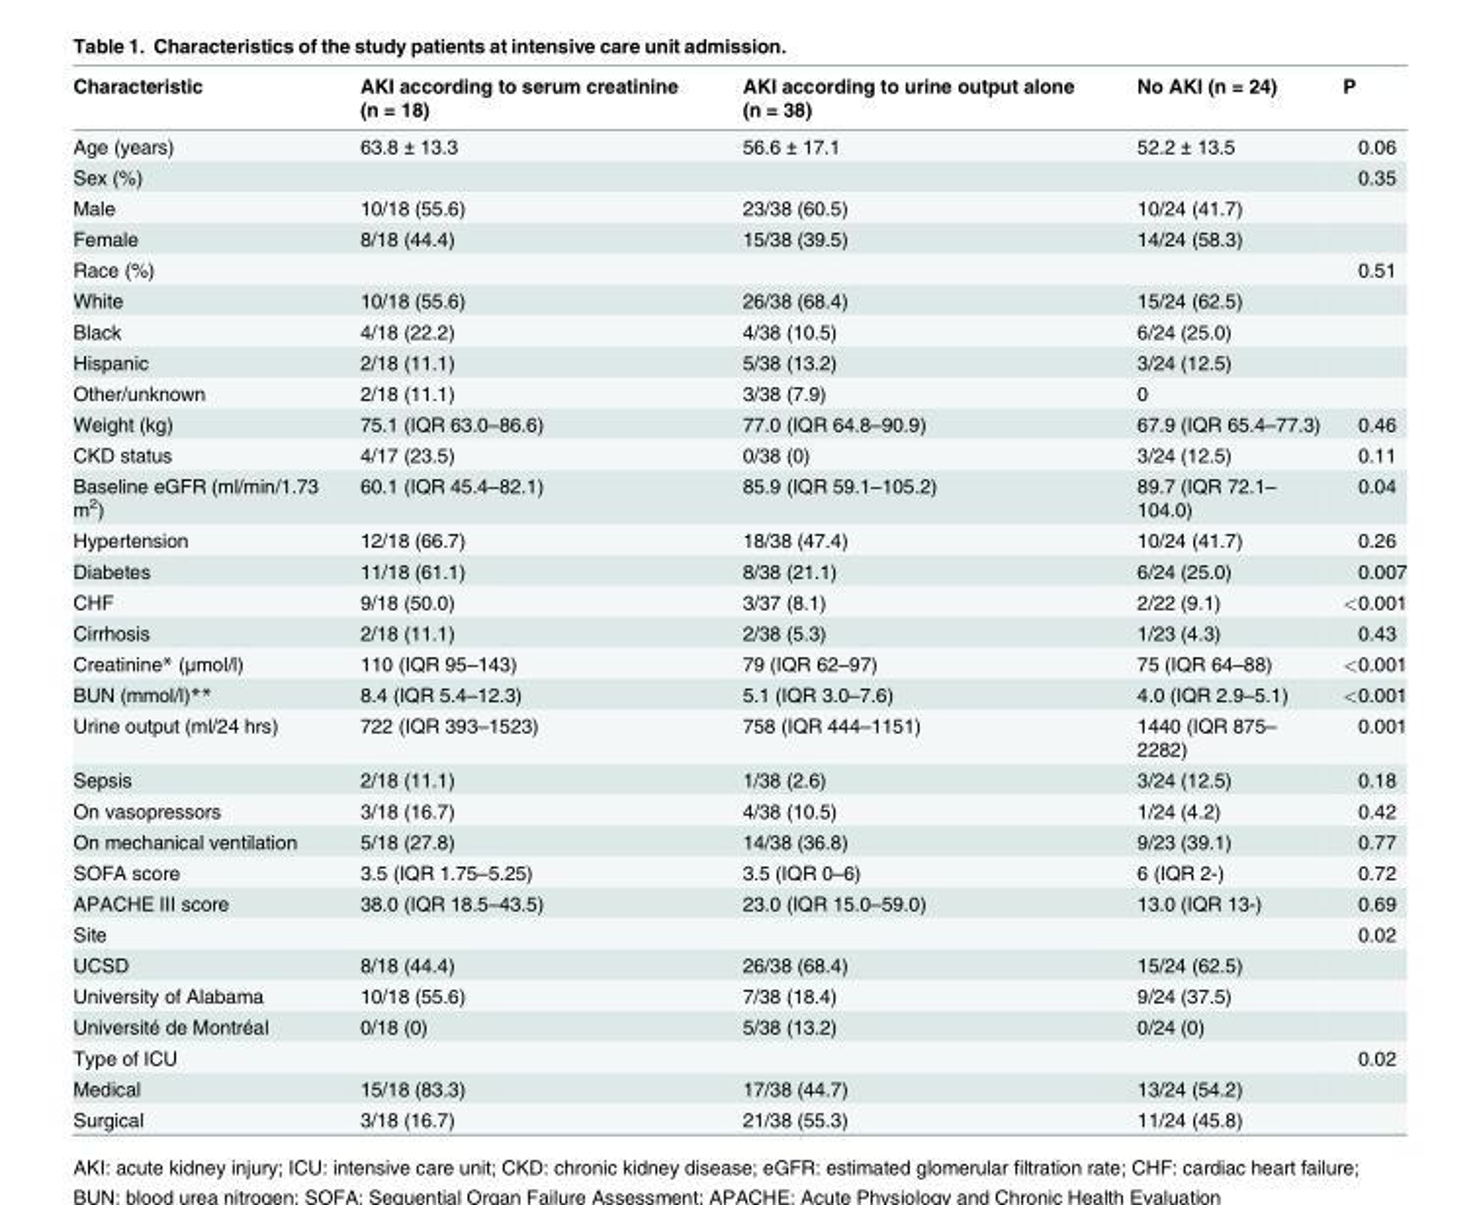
<table><thead><tr><td>Characteristic</td><td>AKI according to serum creatinine (n = 18)</td><td>AKI according to urine output alone (n = 38)</td><td>No AKI (n = 24)</td><td>P</td></tr></thead><tbody><tr><td>Age (years)</td><td>63.8 ± 13.3</td><td>56.6 ± 17.1</td><td>52.2 ± 13.5</td><td>0.06</td></tr><tr><td>Sex (%)</td><td></td><td></td><td></td><td>0.35</td></tr><tr><td>Male</td><td>10/18 (55.6)</td><td>23/38 (60.5)</td><td>10/24 (41.7)</td><td></td></tr><tr><td>Female</td><td>8/18 (44.4)</td><td>15/38 (39.5)</td><td>14/24 (58.3)</td><td></td></tr><tr><td>Race (%)</td><td></td><td></td><td></td><td>0.51</td></tr><tr><td>White</td><td>10/18 (55.6)</td><td>26/38 (68.4)</td><td>15/24 (62.5)</td><td></td></tr><tr><td>Black</td><td>4/18 (22.2)</td><td>4/38 (10.5)</td><td>6/24 (25.0)</td><td></td></tr><tr><td>Hispanic</td><td>2/18 (11.1)</td><td>5/38 (13.2)</td><td>3/24 (12.5)</td><td></td></tr><tr><td>Other/unknown</td><td>2/18 (11.1)</td><td>3/38 (7.9)</td><td>0</td><td></td></tr><tr><td>Weight (kg)</td><td>75.1 (IQR 63.0–86.6)</td><td>77.0 (IQR 64.8–90.9)</td><td>67.9 (IQR 65.4–77.3)</td><td>0.46</td></tr><tr><td>CKD status</td><td>4/17 (23.5)</td><td>0/38 (0)</td><td>3/24 (12.5)</td><td>0.11</td></tr><tr><td>Baseline eGFR (ml/min/1.73 m<sup>2</sup>)</td><td>60.1 (IQR 45.4–82.1)</td><td>85.9 (IQR 59.1–105.2)</td><td>89.7 (IQR 72.1– 104.0)</td><td>0.04</td></tr><tr><td>Hypertension</td><td>12/18 (66.7)</td><td>18/38 (47.4)</td><td>10/24 (41.7)</td><td>0.26</td></tr><tr><td>Diabetes</td><td>11/18 (61.1)</td><td>8/38 (21.1)</td><td>6/24 (25.0)</td><td>0.007</td></tr><tr><td>CHF</td><td>9/18 (50.0)</td><td>3/37 (8.1)</td><td>2/22 (9.1)</td><td>&lt;0.001</td></tr><tr><td>Cirrhosis</td><td>2/18 (11.1)</td><td>2/38 (5.3)</td><td>1/23 (4.3)</td><td>0.43</td></tr><tr><td>Creatinine* (μmol/l)</td><td>110 (IQR 95–143)</td><td>79 (IQR 62–97)</td><td>75 (IQR 64–88)</td><td>&lt;0.001</td></tr><tr><td>BUN (mmol/l)**</td><td>8.4 (IQR 5.4–12.3)</td><td>5.1 (IQR 3.0–7.6)</td><td>4.0 (IQR 2.9–5.1)</td><td>&lt;0.001</td></tr><tr><td>Urine output (ml/24 hrs)</td><td>722 (IQR 393–1523)</td><td>758 (IQR 444–1151)</td><td>1440 (IQR 875– 2282)</td><td>0.001</td></tr><tr><td>Sepsis</td><td>2/18 (11.1)</td><td>1/38 (2.6)</td><td>3/24 (12.5)</td><td>0.18</td></tr><tr><td>On vasopressors</td><td>3/18 (16.7)</td><td>4/38 (10.5)</td><td>1/24 (4.2)</td><td>0.42</td></tr><tr><td>On mechanical ventilation</td><td>5/18 (27.8)</td><td>14/38 (36.8)</td><td>9/23 (39.1)</td><td>0.77</td></tr><tr><td>SOFA score</td><td>3.5 (IQR 1.75–5.25)</td><td>3.5 (IQR 0–6)</td><td>6 (IQR 2-)</td><td>0.72</td></tr><tr><td>APACHE III score</td><td>38.0 (IQR 18.5–43.5)</td><td>23.0 (IQR 15.0–59.0)</td><td>13.0 (IQR 13-)</td><td>0.69</td></tr><tr><td>Site</td><td></td><td></td><td></td><td>0.02</td></tr><tr><td>UCSD</td><td>8/18 (44.4)</td><td>26/38 (68.4)</td><td>15/24 (62.5)</td><td></td></tr><tr><td>University of Alabama</td><td>10/18 (55.6)</td><td>7/38 (18.4)</td><td>9/24 (37.5)</td><td></td></tr><tr><td>Université de Montréal</td><td>0/18 (0)</td><td>5/38 (13.2)</td><td>0/24 (0)</td><td></td></tr><tr><td>Type of ICU</td><td></td><td></td><td></td><td>0.02</td></tr><tr><td>Medical</td><td>15/18 (83.3)</td><td>17/38 (44.7)</td><td>13/24 (54.2)</td><td></td></tr><tr><td>Surgical</td><td>3/18 (16.7)</td><td>21/38 (55.3)</td><td>11/24 (45.8)</td><td></td></tr></tbody></table>